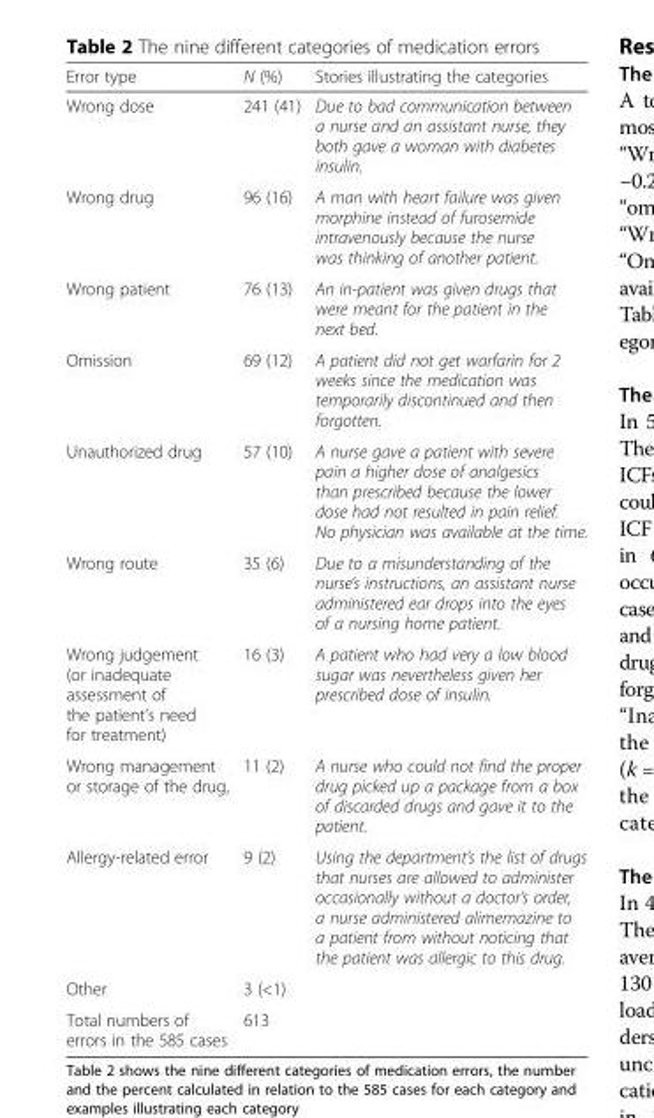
<table><thead><tr><td>Error type</td><td>N (%)</td><td>Stories illustrating the categories</td></tr></thead><tbody><tr><td>Wrong dose</td><td>241 (41)</td><td>Due to bad communication between a nurse and an assistant nurse, they both gave a woman with diabetes insulin.</td></tr><tr><td>Wrong drug</td><td>96 (16)</td><td>A man with heart failure was given morphine instead of furosemide intravenously because the nurse was thinking of another patient.</td></tr><tr><td>Wrong patient</td><td>76 (13)</td><td>An in-patient was given drugs that were meant for the patient in the next bed.</td></tr><tr><td>Omission</td><td>69 (12)</td><td>A patient did not get warfarin for 2 weeks since the medication was temporarily discontinued and then forgotten.</td></tr><tr><td>Unauthorized drug</td><td>57 (10)</td><td>A nurse gave a patient with severe pain a higher dose of analgesics than prescribed because the lower dose had not resulted in pain relief. No physician was available at the time.</td></tr><tr><td>Wrong route</td><td>35 (6)</td><td>Due to a misunderstanding of the nurse’s instructions, an assistant nurse administered ear drops into the eyes of a nursing home patient.</td></tr><tr><td>Wrong judgement (or inadequate assessment of the patient’s need for treatment)</td><td>16 (3)</td><td>A patient who had very a low blood sugar was nevertheless given her prescribed dose of insulin.</td></tr><tr><td>Wrong management or storage of the drug,</td><td>11 (2)</td><td>A nurse who could not find the proper drug picked up a package from a box of discarded drugs and gave it to the patient.</td></tr><tr><td>Allergy-related error</td><td>9 (2)</td><td>Using the department’s the list of drugs that nurses are allowed to administer occasionally without a doctor’s order, a nurse administered alimemazine to a patient from without noticing that the patient was allergic to this drug.</td></tr><tr><td>Other</td><td>3 (&lt;1)</td><td></td></tr><tr><td>Total numbers of errors in the 585 cases</td><td>613</td><td></td></tr></tbody></table>